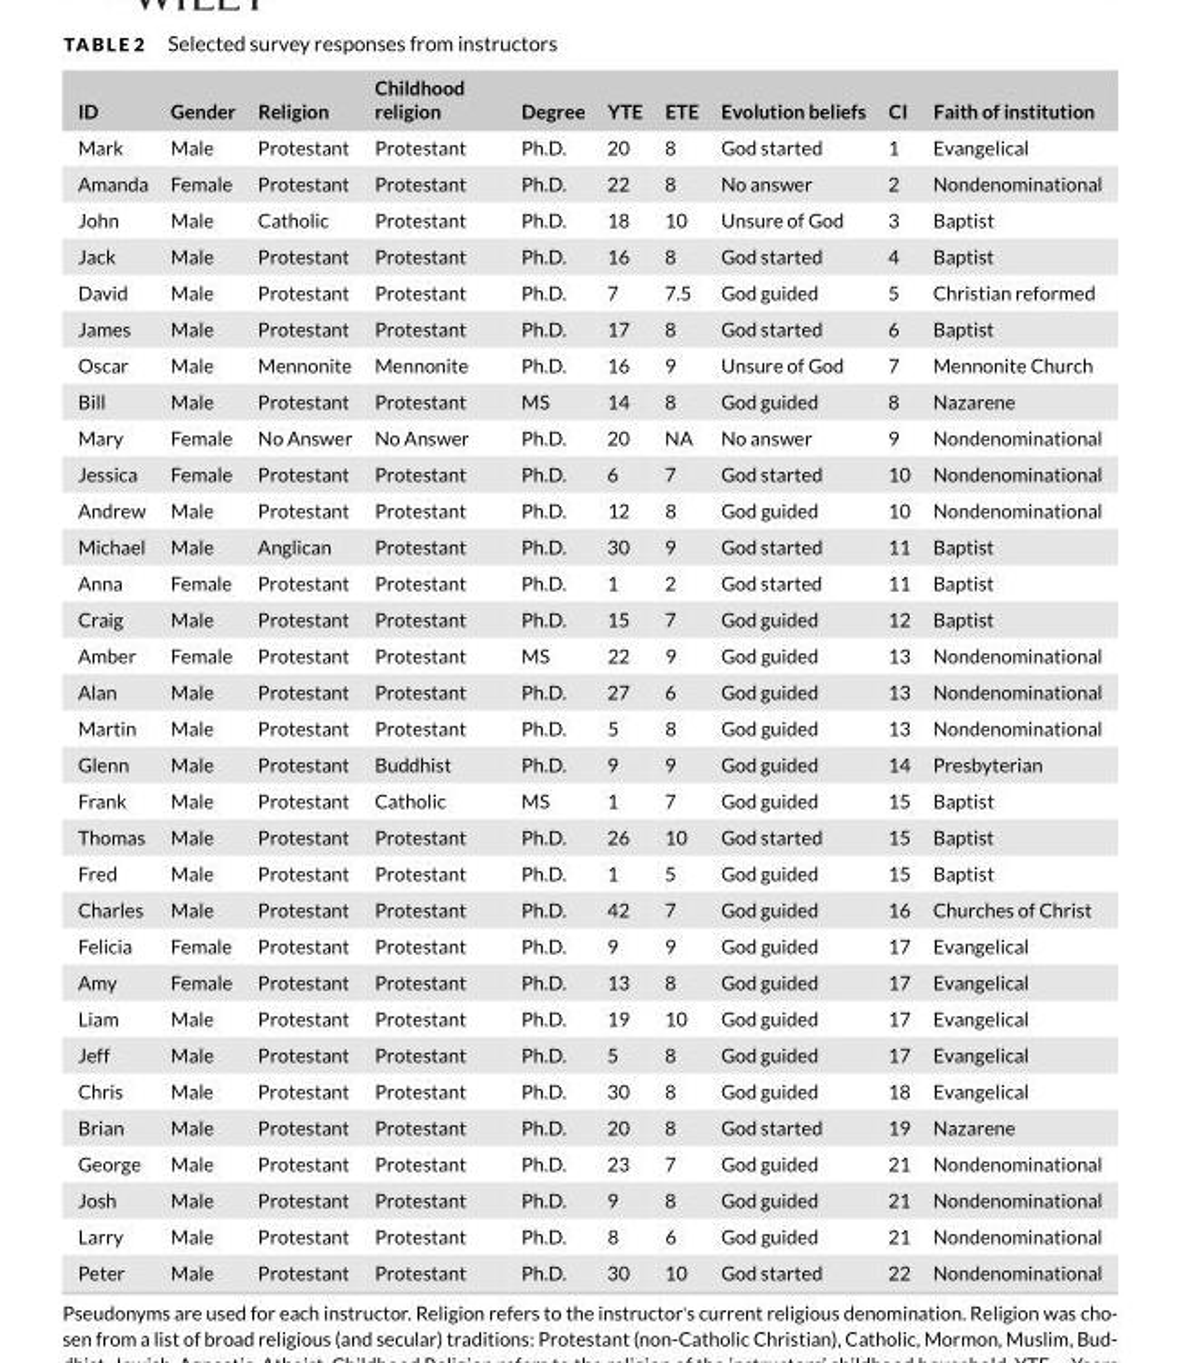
<table><thead><tr><td>ID</td><td>Gender</td><td>Religion</td><td>Childhood religion</td><td>Degree</td><td>YTE</td><td>ETE</td><td>Evolution beliefs</td><td>CI</td><td>Faith of institution</td></tr></thead><tbody><tr><td>Mark</td><td>Male</td><td>Protestant</td><td>Protestant</td><td>Ph.D.</td><td>20</td><td>8</td><td>God started</td><td>1</td><td>Evangelical</td></tr><tr><td>Amanda</td><td>Female</td><td>Protestant</td><td>Protestant</td><td>Ph.D.</td><td>22</td><td>8</td><td>No answer</td><td>2</td><td>Nondenominational</td></tr><tr><td>John</td><td>Male</td><td>Catholic</td><td>Protestant</td><td>Ph.D.</td><td>18</td><td>10</td><td>Unsure of God</td><td>3</td><td>Baptist</td></tr><tr><td>Jack</td><td>Male</td><td>Protestant</td><td>Protestant</td><td>Ph.D.</td><td>16</td><td>8</td><td>God started</td><td>4</td><td>Baptist</td></tr><tr><td>David</td><td>Male</td><td>Protestant</td><td>Protestant</td><td>Ph.D.</td><td>7</td><td>7.5</td><td>God guided</td><td>5</td><td>Christian reformed</td></tr><tr><td>James</td><td>Male</td><td>Protestant</td><td>Protestant</td><td>Ph.D.</td><td>17</td><td>8</td><td>God started</td><td>6</td><td>Baptist</td></tr><tr><td>Oscar</td><td>Male</td><td>Mennonite</td><td>Mennonite</td><td>Ph.D.</td><td>16</td><td>9</td><td>Unsure of God</td><td>7</td><td>Mennonite Church</td></tr><tr><td>Bill</td><td>Male</td><td>Protestant</td><td>Protestant</td><td>MS</td><td>14</td><td>8</td><td>God guided</td><td>8</td><td>Nazarene</td></tr><tr><td>Mary</td><td>Female</td><td>No Answer</td><td>No Answer</td><td>Ph.D.</td><td>20</td><td>NA</td><td>No answer</td><td>9</td><td>Nondenominational</td></tr><tr><td>Jessica</td><td>Female</td><td>Protestant</td><td>Protestant</td><td>Ph.D.</td><td>6</td><td>7</td><td>God started</td><td>10</td><td>Nondenominational</td></tr><tr><td>Andrew</td><td>Male</td><td>Protestant</td><td>Protestant</td><td>Ph.D.</td><td>12</td><td>8</td><td>God guided</td><td>10</td><td>Nondenominational</td></tr><tr><td>Michael</td><td>Male</td><td>Anglican</td><td>Protestant</td><td>Ph.D.</td><td>30</td><td>9</td><td>God started</td><td>11</td><td>Baptist</td></tr><tr><td>Anna</td><td>Female</td><td>Protestant</td><td>Protestant</td><td>Ph.D.</td><td>1</td><td>2</td><td>God started</td><td>11</td><td>Baptist</td></tr><tr><td>Craig</td><td>Male</td><td>Protestant</td><td>Protestant</td><td>Ph.D.</td><td>15</td><td>7</td><td>God guided</td><td>12</td><td>Baptist</td></tr><tr><td>Amber</td><td>Female</td><td>Protestant</td><td>Protestant</td><td>MS</td><td>22</td><td>9</td><td>God guided</td><td>13</td><td>Nondenominational</td></tr><tr><td>Alan</td><td>Male</td><td>Protestant</td><td>Protestant</td><td>Ph.D.</td><td>27</td><td>6</td><td>God guided</td><td>13</td><td>Nondenominational</td></tr><tr><td>Martin</td><td>Male</td><td>Protestant</td><td>Protestant</td><td>Ph.D.</td><td>5</td><td>8</td><td>God guided</td><td>13</td><td>Nondenominational</td></tr><tr><td>Glenn</td><td>Male</td><td>Protestant</td><td>Buddhist</td><td>Ph.D.</td><td>9</td><td>9</td><td>God guided</td><td>14</td><td>Presbyterian</td></tr><tr><td>Frank</td><td>Male</td><td>Protestant</td><td>Catholic</td><td>MS</td><td>1</td><td>7</td><td>God guided</td><td>15</td><td>Baptist</td></tr><tr><td>Thomas</td><td>Male</td><td>Protestant</td><td>Protestant</td><td>Ph.D.</td><td>26</td><td>10</td><td>God started</td><td>15</td><td>Baptist</td></tr><tr><td>Fred</td><td>Male</td><td>Protestant</td><td>Protestant</td><td>Ph.D.</td><td>1</td><td>5</td><td>God guided</td><td>15</td><td>Baptist</td></tr><tr><td>Charles</td><td>Male</td><td>Protestant</td><td>Protestant</td><td>Ph.D.</td><td>42</td><td>7</td><td>God guided</td><td>16</td><td>Churches of Christ</td></tr><tr><td>Felicia</td><td>Female</td><td>Protestant</td><td>Protestant</td><td>Ph.D.</td><td>9</td><td>9</td><td>God guided</td><td>17</td><td>Evangelical</td></tr><tr><td>Amy</td><td>Female</td><td>Protestant</td><td>Protestant</td><td>Ph.D.</td><td>13</td><td>8</td><td>God guided</td><td>17</td><td>Evangelical</td></tr><tr><td>Liam</td><td>Male</td><td>Protestant</td><td>Protestant</td><td>Ph.D.</td><td>19</td><td>10</td><td>God guided</td><td>17</td><td>Evangelical</td></tr><tr><td>Jeff</td><td>Male</td><td>Protestant</td><td>Protestant</td><td>Ph.D.</td><td>5</td><td>8</td><td>God guided</td><td>17</td><td>Evangelical</td></tr><tr><td>Chris</td><td>Male</td><td>Protestant</td><td>Protestant</td><td>Ph.D.</td><td>30</td><td>8</td><td>God guided</td><td>18</td><td>Evangelical</td></tr><tr><td>Brian</td><td>Male</td><td>Protestant</td><td>Protestant</td><td>Ph.D.</td><td>20</td><td>8</td><td>God started</td><td>19</td><td>Nazarene</td></tr><tr><td>George</td><td>Male</td><td>Protestant</td><td>Protestant</td><td>Ph.D.</td><td>23</td><td>7</td><td>God guided</td><td>21</td><td>Nondenominational</td></tr><tr><td>Josh</td><td>Male</td><td>Protestant</td><td>Protestant</td><td>Ph.D.</td><td>9</td><td>8</td><td>God guided</td><td>21</td><td>Nondenominational</td></tr><tr><td>Larry</td><td>Male</td><td>Protestant</td><td>Protestant</td><td>Ph.D.</td><td>8</td><td>6</td><td>God guided</td><td>21</td><td>Nondenominational</td></tr><tr><td>Peter</td><td>Male</td><td>Protestant</td><td>Protestant</td><td>Ph.D.</td><td>30</td><td>10</td><td>God started</td><td>22</td><td>Nondenominational</td></tr></tbody></table>